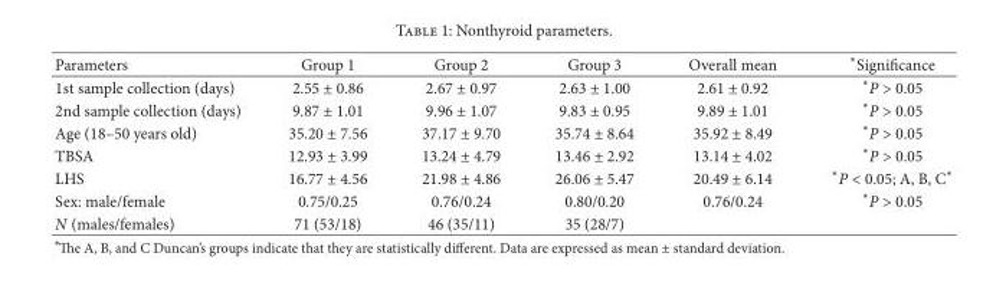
<table><thead><tr><td>Parameters</td><td>Group 1</td><td>Group 2</td><td>Group 3</td><td>Overall mean</td><td>∗Signi�cance</td></tr></thead><tbody><tr><td>1st sample collection (days)</td><td>2.55 ± 0.86</td><td>2.67 ± 0.97</td><td>2.63 ± 1.00</td><td>2.61 ± 0.92</td><td>∗P &gt; 0.05</td></tr><tr><td>2nd sample collection (days)</td><td>9.87 ± 1.01</td><td>9.96 ± 1.07</td><td>9.83 ± 0.95</td><td>9.89 ± 1.01</td><td>∗P &gt; 0.05</td></tr><tr><td>Age (18–50 years old)</td><td>35.20 ± 7.56</td><td>37.17 ± 9.70</td><td>35.74 ± 8.64</td><td>35.92 ± 8.49</td><td>∗P &gt; 0.05</td></tr><tr><td>TBSA</td><td>12.93 ± 3.99</td><td>13.24 ± 4.79</td><td>13.46 ± 2.92</td><td>13.14 ± 4.02</td><td>∗P &gt; 0.05</td></tr><tr><td>LHS</td><td>16.77 ± 4.56</td><td>21.98 ± 4.86</td><td>26.06 ± 5.47</td><td>20.49 ± 6.14</td><td>∗P &lt; 0.05; A, B, C∗</td></tr><tr><td>Sex: male/female</td><td>0.75/0.25</td><td>0.76/0.24</td><td>0.80/0.20</td><td>0.76/0.24</td><td>∗P &gt; 0.05</td></tr><tr><td>N (males/females)</td><td>71 (53/18)</td><td>46 (35/11)</td><td>35 (28/7)</td><td></td><td></td></tr></tbody></table>